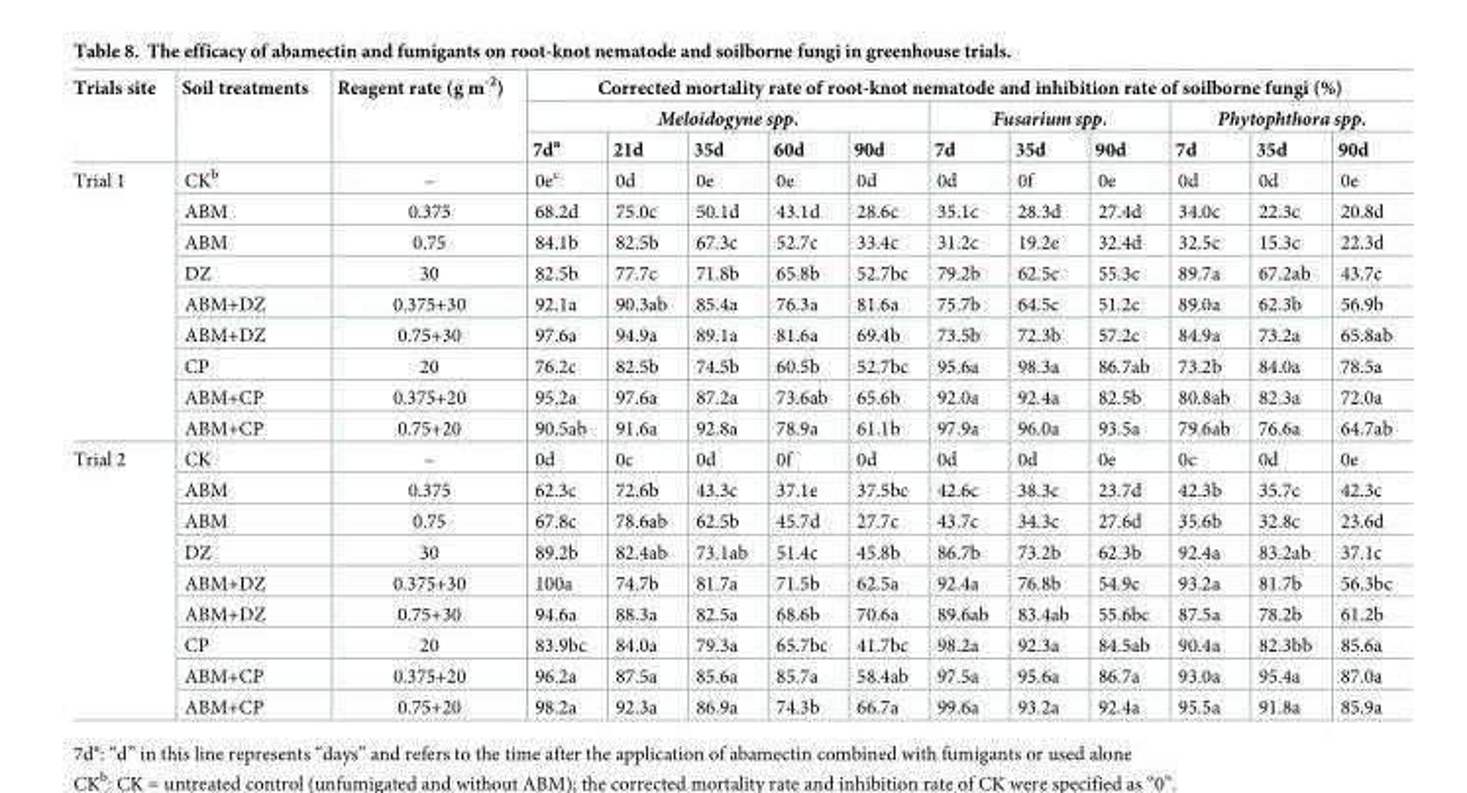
<table><thead><tr><td rowspan="3">Trials site</td><td rowspan="3">Soil treatments</td><td rowspan="3">Reagent rate (g m<sup>-2</sup>)</td><td colspan="11">Corrected mortality rate of root-knot nematode and inhibition rate of soilborne fungi (%)</td></tr><tr><td colspan="5">Meloidogyne spp.</td><td colspan="3">Fusarium spp.</td><td colspan="3">Phytophthora spp.</td></tr><tr><td>7d<sup>a</sup></td><td>21d</td><td>35d</td><td>60d</td><td>90d</td><td>7d</td><td>35d</td><td>90d</td><td>7d</td><td>35d</td><td>90d</td></tr></thead><tbody><tr><td rowspan="9">Trial 1</td><td>CK<sup>b</sup></td><td>–</td><td>0e<sup>c</sup></td><td>0d</td><td>0e</td><td>0e</td><td>0d</td><td>0d</td><td>0f</td><td>0e</td><td>0d</td><td>0d</td><td>0e</td></tr><tr><td>ABM</td><td>0.375</td><td>68.2d</td><td>75.0c</td><td>50.1d</td><td>43.1d</td><td>28.6c</td><td>35.1c</td><td>28.3d</td><td>27.4d</td><td>34.0c</td><td>22.3c</td><td>20.8d</td></tr><tr><td>ABM</td><td>0.75</td><td>84.1b</td><td>82.5b</td><td>67.3c</td><td>52.7c</td><td>33.4c</td><td>31.2c</td><td>19.2e</td><td>32.4d</td><td>32.5c</td><td>15.3c</td><td>22.3d</td></tr><tr><td>DZ</td><td>30</td><td>82.5b</td><td>77.7c</td><td>71.8b</td><td>65.8b</td><td>52.7bc</td><td>79.2b</td><td>62.5c</td><td>55.3c</td><td>89.7a</td><td>67.2ab</td><td>43.7c</td></tr><tr><td>ABM+DZ</td><td>0.375+30</td><td>92.1a</td><td>90.3ab</td><td>85.4a</td><td>76.3a</td><td>81.6a</td><td>75.7b</td><td>64.5c</td><td>51.2c</td><td>89.0a</td><td>62.3b</td><td>56.9b</td></tr><tr><td>ABM+DZ</td><td>0.75+30</td><td>97.6a</td><td>94.9a</td><td>89.1a</td><td>81.6a</td><td>69.4b</td><td>73.5b</td><td>72.3b</td><td>57.2c</td><td>84.9a</td><td>73.2a</td><td>65.8ab</td></tr><tr><td>CP</td><td>20</td><td>76.2c</td><td>82.5b</td><td>74.5b</td><td>60.5b</td><td>52.7bc</td><td>95.6a</td><td>98.3a</td><td>86.7ab</td><td>73.2b</td><td>84.0a</td><td>78.5a</td></tr><tr><td>ABM+CP</td><td>0.375+20</td><td>95.2a</td><td>97.6a</td><td>87.2a</td><td>73.6ab</td><td>65.6b</td><td>92.0a</td><td>92.4a</td><td>82.5b</td><td>80.8ab</td><td>82.3a</td><td>72.0a</td></tr><tr><td>ABM+CP</td><td>0.75+20</td><td>90.5ab</td><td>91.6a</td><td>92.8a</td><td>78.9a</td><td>61.1b</td><td>97.9a</td><td>96.0a</td><td>93.5a</td><td>79.6ab</td><td>76.6a</td><td>64.7ab</td></tr><tr><td rowspan="9">Trial 2</td><td>CK</td><td>–</td><td>0d</td><td>0c</td><td>0d</td><td>0f</td><td>0d</td><td>0d</td><td>0d</td><td>0e</td><td>0c</td><td>0d</td><td>0e</td></tr><tr><td>ABM</td><td>0.375</td><td>62.3c</td><td>72.6b</td><td>43.3c</td><td>37.1e</td><td>37.5bc</td><td>42.6c</td><td>38.3c</td><td>23.7d</td><td>42.3b</td><td>35.7c</td><td>42.3c</td></tr><tr><td>ABM</td><td>0.75</td><td>67.8c</td><td>78.6ab</td><td>62.5b</td><td>45.7d</td><td>27.7c</td><td>43.7c</td><td>34.3c</td><td>27.6d</td><td>35.6b</td><td>32.8c</td><td>23.6d</td></tr><tr><td>DZ</td><td>30</td><td>89.2b</td><td>82.4ab</td><td>73.1ab</td><td>51.4c</td><td>45.8b</td><td>86.7b</td><td>73.2b</td><td>62.3b</td><td>92.4a</td><td>83.2ab</td><td>37.1c</td></tr><tr><td>ABM+DZ</td><td>0.375+30</td><td>100a</td><td>74.7b</td><td>81.7a</td><td>71.5b</td><td>62.5a</td><td>92.4a</td><td>76.8b</td><td>54.9c</td><td>93.2a</td><td>81.7b</td><td>56.3bc</td></tr><tr><td>ABM+DZ</td><td>0.75+30</td><td>94.6a</td><td>88.3a</td><td>82.5a</td><td>68.6b</td><td>70.6a</td><td>89.6ab</td><td>83.4ab</td><td>55.6bc</td><td>87.5a</td><td>78.2b</td><td>61.2b</td></tr><tr><td>CP</td><td>20</td><td>83.9bc</td><td>84.0a</td><td>79.3a</td><td>65.7bc</td><td>41.7bc</td><td>98.2a</td><td>92.3a</td><td>84.5ab</td><td>90.4a</td><td>82.3bb</td><td>85.6a</td></tr><tr><td>ABM+CP</td><td>0.375+20</td><td>96.2a</td><td>87.5a</td><td>85.6a</td><td>85.7a</td><td>58.4ab</td><td>97.5a</td><td>95.6a</td><td>86.7a</td><td>93.0a</td><td>95.4a</td><td>87.0a</td></tr><tr><td>ABM+CP</td><td>0.75+20</td><td>98.2a</td><td>92.3a</td><td>86.9a</td><td>74.3b</td><td>66.7a</td><td>99.6a</td><td>93.2a</td><td>92.4a</td><td>95.5a</td><td>91.8a</td><td>85.9a</td></tr></tbody></table>